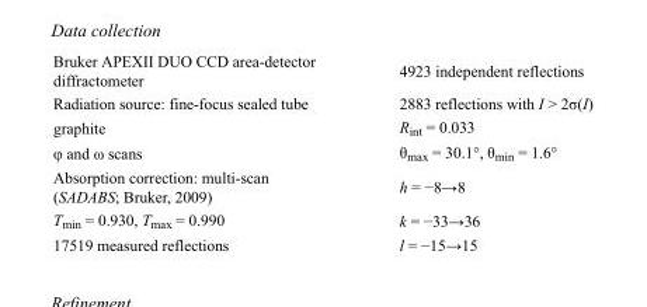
<table><tbody><tr><td>Bruker APEXII DUO CCD area-detector diffractometer</td><td>4923 independent reflections</td></tr><tr><td>Radiation source: fine-focus sealed tube</td><td>2883 reflections with I &gt; 2σ(I)</td></tr><tr><td>graphite</td><td>R<sub>int</sub> = 0.033</td></tr><tr><td>φ and ω scans</td><td>θ<sub>max</sub> = 30.1°, θ<sub>min</sub> = 1.6°</td></tr><tr><td>Absorption correction: multi-scan (SADABS; Bruker, 2009)</td><td>h = −8→8</td></tr><tr><td>T<sub>min</sub> = 0.930, T<sub>max</sub> = 0.990</td><td>k = −33→36</td></tr><tr><td>17519 measured reflections</td><td>l = −15→15</td></tr></tbody></table>